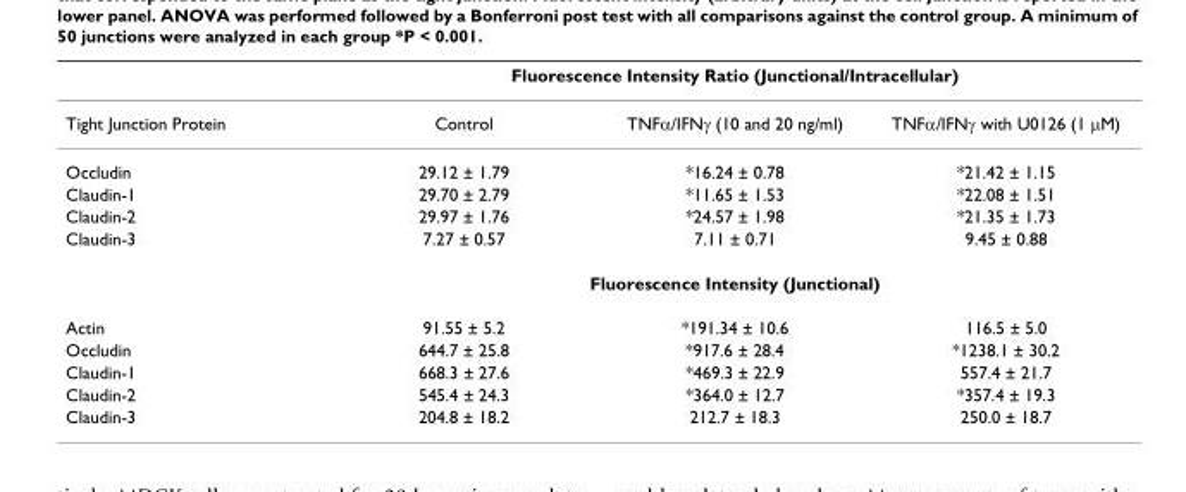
<table><thead><tr><td rowspan="2">Tight Junction Protein</td><td colspan="3">Fluorescence Intensity Ratio (Junctional/Intracellular)</td></tr><tr><td>Control</td><td>TNFα/IFNγ (10 and 20 ng/ml)</td><td>TNFα/IFNγ with U0126 (1 µM)</td></tr></thead><tbody><tr><td>Occludin</td><td>29.12 ± 1.79</td><td>*16.24 ± 0.78</td><td>*21.42 ± 1.15</td></tr><tr><td>Claudin-1</td><td>29.70 ± 2.79</td><td>*11.65 ± 1.53</td><td>*22.08 ± 1.51</td></tr><tr><td>Claudin-2</td><td>29.97 ± 1.76</td><td>*24.57 ± 1.98</td><td>*21.35 ± 1.73</td></tr><tr><td rowspan="2">Claudin-3</td><td>7.27 ± 0.57</td><td>7.11 ± 0.71</td><td>9.45 ± 0.88</td></tr><tr><td colspan="3">Fluorescence Intensity (Junctional)</td></tr><tr><td>Actin</td><td>91.55 ± 5.2</td><td>*191.34 ± 10.6</td><td>116.5 ± 5.0</td></tr><tr><td>Occludin</td><td>644.7 ± 25.8</td><td>*917.6 ± 28.4</td><td>*1238.1 ± 30.2</td></tr><tr><td>Claudin-1</td><td>668.3 ± 27.6</td><td>*469.3 ± 22.9</td><td>557.4 ± 21.7</td></tr><tr><td>Claudin-2</td><td>545.4 ± 24.3</td><td>*364.0 ± 12.7</td><td>*357.4 ± 19.3</td></tr><tr><td>Claudin-3</td><td>204.8 ± 18.2</td><td>212.7 ± 18.3</td><td>250.0 ± 18.7</td></tr></tbody></table>